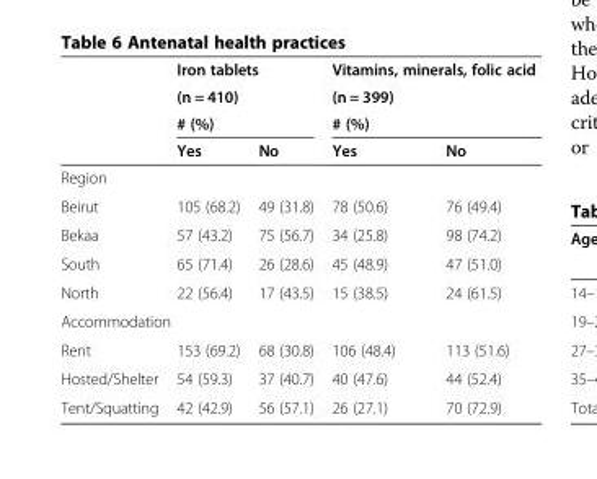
<table><thead><tr><td rowspan="4"></td><td rowspan="3" colspan="2">Iron tablets (n = 410) # (%)</td><td rowspan="3" colspan="2">Vitamins, minerals, folic acid (n = 399) # (%)</td></tr><tr></tr><tr></tr><tr><td>Yes</td><td>No</td><td>Yes</td><td>No</td></tr></thead><tbody><tr><td colspan="5">Region</td></tr><tr><td>Beirut</td><td>105 (68.2)</td><td>49 (31.8)</td><td>78 (50.6)</td><td>76 (49.4)</td></tr><tr><td>Bekaa</td><td>57 (43.2)</td><td>75 (56.7)</td><td>34 (25.8)</td><td>98 (74.2)</td></tr><tr><td>South</td><td>65 (71.4)</td><td>26 (28.6)</td><td>45 (48.9)</td><td>47 (51.0)</td></tr><tr><td>North</td><td>22 (56.4)</td><td>17 (43.5)</td><td>15 (38.5)</td><td>24 (61.5)</td></tr><tr><td colspan="5">Accommodation</td></tr><tr><td>Rent</td><td>153 (69.2)</td><td>68 (30.8)</td><td>106 (48.4)</td><td>113 (51.6)</td></tr><tr><td>Hosted/Shelter</td><td>54 (59.3)</td><td>37 (40.7)</td><td>40 (47.6)</td><td>44 (52.4)</td></tr><tr><td>Tent/Squatting</td><td>42 (42.9)</td><td>56 (57.1)</td><td>26 (27.1)</td><td>70 (72.9)</td></tr></tbody></table>